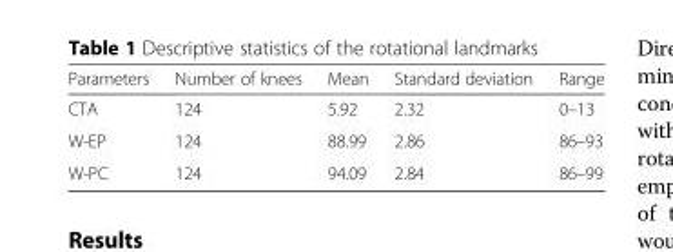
<table><thead><tr><td>Parameters</td><td>Number of knees</td><td>Mean</td><td>Standard deviation</td><td>Range</td></tr></thead><tbody><tr><td>CTA</td><td>124</td><td>5.92</td><td>2.32</td><td>0–13</td></tr><tr><td>W-EP</td><td>124</td><td>88.99</td><td>2.86</td><td>86–93</td></tr><tr><td>W-PC</td><td>124</td><td>94.09</td><td>2.84</td><td>86–99</td></tr></tbody></table>